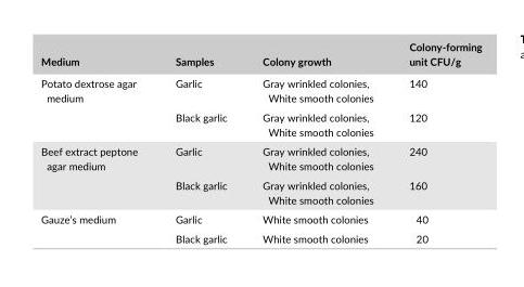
<table><thead><tr><td>Medium</td><td>Samples</td><td>Colony growth</td><td>Colony- forming unit CFU/g</td></tr></thead><tbody><tr><td rowspan="2">Potato dextrose agar medium</td><td>Garlic</td><td>Gray wrinkled colonies, White smooth colonies</td><td>140</td></tr><tr><td>Black garlic</td><td>Gray wrinkled colonies, White smooth colonies</td><td>120</td></tr><tr><td rowspan="2">Beef extract peptone agar medium</td><td>Garlic</td><td>Gray wrinkled colonies, White smooth colonies</td><td>240</td></tr><tr><td>Black garlic</td><td>Gray wrinkled colonies, White smooth colonies</td><td>160</td></tr><tr><td rowspan="2">Gauze’s medium</td><td>Garlic</td><td>White smooth colonies</td><td>40</td></tr><tr><td>Black garlic</td><td>White smooth colonies</td><td>20</td></tr></tbody></table>